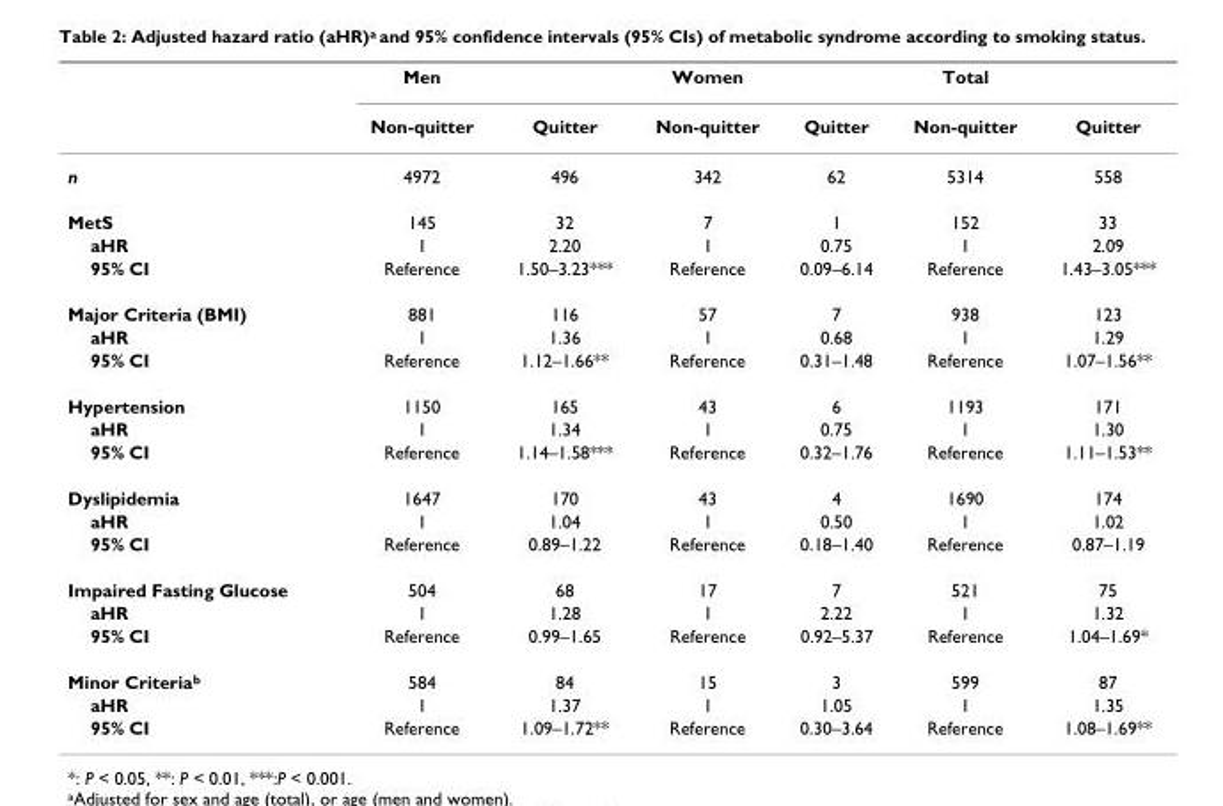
<table><thead><tr><td rowspan="2"></td><td rowspan="2">Men Non-quitter</td><td rowspan="2">Quitter</td><td rowspan="2">Women Non-quitter</td><td rowspan="2">Quitter</td><td rowspan="2">Total Non-quitter</td><td rowspan="2">Quitter</td></tr><tr></tr></thead><tbody><tr><td>n</td><td>4972</td><td>496</td><td>342</td><td>62</td><td>5314</td><td>558</td></tr><tr><td>MetS</td><td>145</td><td>32</td><td>7</td><td>1</td><td>152</td><td>33</td></tr><tr><td>aHR</td><td>1</td><td>2.20</td><td>1</td><td>0.75</td><td>1</td><td>2.09</td></tr><tr><td>95% CI</td><td>Reference</td><td>1.50–3.23***</td><td>Reference</td><td>0.09–6.14</td><td>Reference</td><td>1.43–3.05***</td></tr><tr><td>Major Criteria (BMI)</td><td>881</td><td>116</td><td>57</td><td>7</td><td>938</td><td>123</td></tr><tr><td>aHR</td><td>1</td><td>1.36</td><td>1</td><td>0.68</td><td>1</td><td>1.29</td></tr><tr><td>95% CI</td><td>Reference</td><td>1.12–1.66**</td><td>Reference</td><td>0.31–1.48</td><td>Reference</td><td>1.07–1.56**</td></tr><tr><td>Hypertension</td><td>1150</td><td>165</td><td>43</td><td>6</td><td>1193</td><td>171</td></tr><tr><td>aHR</td><td>1</td><td>1.34</td><td>1</td><td>0.75</td><td>1</td><td>1.30</td></tr><tr><td>95% CI</td><td>Reference</td><td>1.14–1.58***</td><td>Reference</td><td>0.32–1.76</td><td>Reference</td><td>1.11–1.53**</td></tr><tr><td>Dyslipidemia</td><td>1647</td><td>170</td><td>43</td><td>4</td><td>1690</td><td>174</td></tr><tr><td>aHR</td><td>1</td><td>1.04</td><td>1</td><td>0.50</td><td>1</td><td>1.02</td></tr><tr><td>95% CI</td><td>Reference</td><td>0.89–1.22</td><td>Reference</td><td>0.18–1.40</td><td>Reference</td><td>0.87–1.19</td></tr><tr><td>Impaired Fasting Glucose</td><td>504</td><td>68</td><td>17</td><td>7</td><td>521</td><td>75</td></tr><tr><td>aHR</td><td>1</td><td>1.28</td><td>1</td><td>2.22</td><td>1</td><td>1.32</td></tr><tr><td>95% CI</td><td>Reference</td><td>0.99–1.65</td><td>Reference</td><td>0.92–5.37</td><td>Reference</td><td>1.04–1.69*</td></tr><tr><td>Minor Criteria<sup>b</sup></td><td>584</td><td>84</td><td>15</td><td>3</td><td>599</td><td>87</td></tr><tr><td>aHR</td><td>1</td><td>1.37</td><td>1</td><td>1.05</td><td>1</td><td>1.35</td></tr><tr><td>95% CI</td><td>Reference</td><td>1.09–1.72**</td><td>Reference</td><td>0.30–3.64</td><td>Reference</td><td>1.08–1.69**</td></tr></tbody></table>